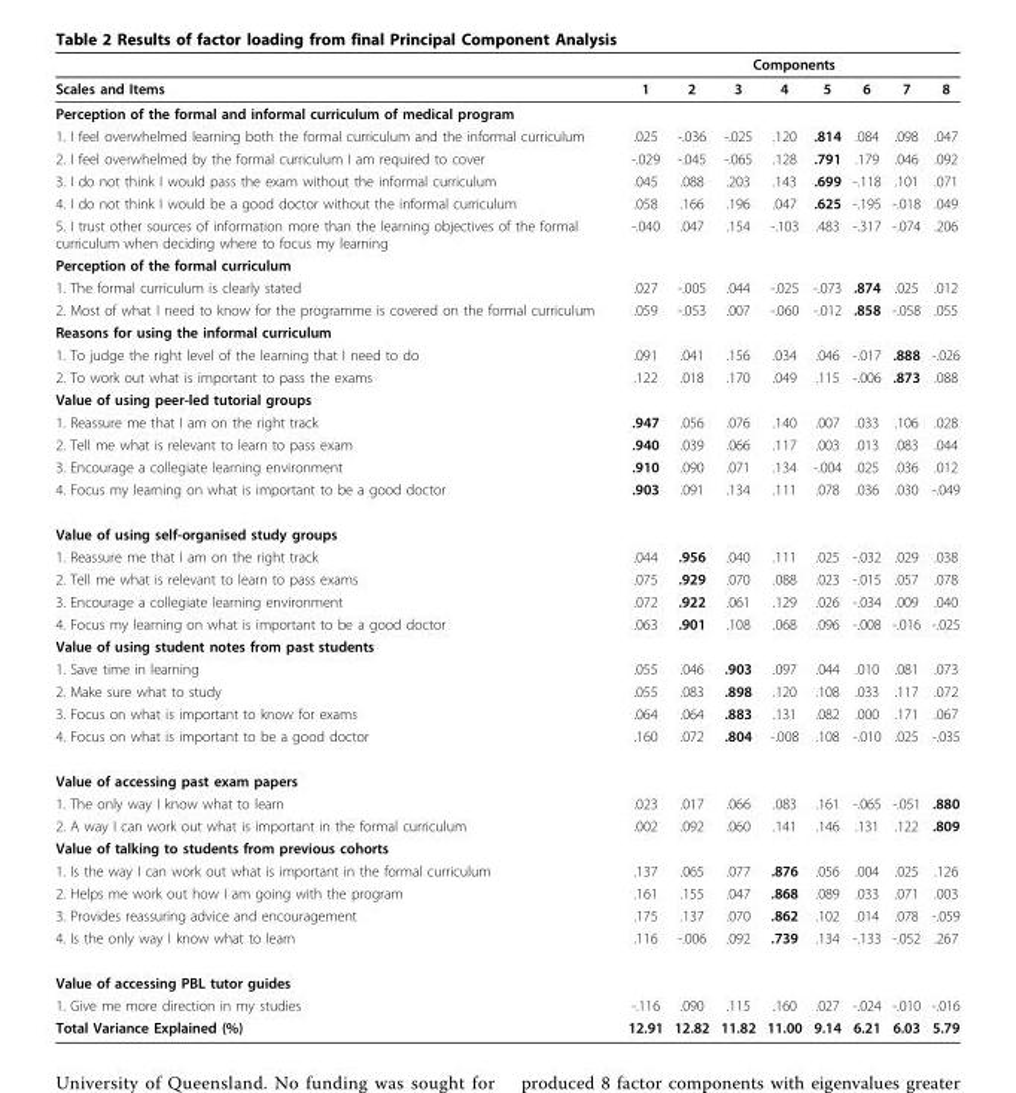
<table><thead><tr><td rowspan="2">Scales and Items</td><td colspan="8">Components</td></tr><tr><td>1</td><td>2</td><td>3</td><td>4</td><td>5</td><td>6</td><td>7</td><td>8</td></tr></thead><tbody><tr><td colspan="9">Perception of the formal and informal curriculum of medical program</td></tr><tr><td>1. I feel overwhelmed learning both the formal curriculum and the informal curriculum</td><td>.025</td><td>-.036</td><td>-.025</td><td>.120</td><td>.814</td><td>.084</td><td>.098</td><td>.047</td></tr><tr><td>2. I feel overwhelmed by the formal curriculum I am required to cover</td><td>-.029</td><td>-.045</td><td>-.065</td><td>.128</td><td>.791</td><td>.179</td><td>.046</td><td>.092</td></tr><tr><td>3. I do not think I would pass the exam without the informal curriculum</td><td>.045</td><td>.088</td><td>.203</td><td>.143</td><td>.699</td><td>-.118</td><td>.101</td><td>.071</td></tr><tr><td>4. I do not think I would be a good doctor without the informal curriculum</td><td>.058</td><td>.166</td><td>.196</td><td>.047</td><td>.625</td><td>-.195</td><td>-.018</td><td>.049</td></tr><tr><td>5. I trust other sources of information more than the learning objectives of the formal curriculum when deciding where to focus my learning</td><td>-.040</td><td>.047</td><td>.154</td><td>-.103</td><td>.483</td><td>-.317</td><td>-.074</td><td>.206</td></tr><tr><td colspan="9">Perception of the formal curriculum</td></tr><tr><td>1. The formal curriculum is clearly stated</td><td>.027</td><td>-.005</td><td>.044</td><td>-.025</td><td>-.073</td><td>.874</td><td>.025</td><td>.012</td></tr><tr><td>2. Most of what I need to know for the programme is covered on the formal curriculum</td><td>.059</td><td>-.053</td><td>.007</td><td>-.060</td><td>-.012</td><td>.858</td><td>-.058</td><td>.055</td></tr><tr><td colspan="9">Reasons for using the informal curriculum</td></tr><tr><td>1. To judge the right level of the learning that I need to do</td><td>.091</td><td>.041</td><td>.156</td><td>.034</td><td>.046</td><td>-.017</td><td>.888</td><td>-.026</td></tr><tr><td>2. To work out what is important to pass the exams</td><td>.122</td><td>.018</td><td>.170</td><td>.049</td><td>.115</td><td>-.006</td><td>.873</td><td>.088</td></tr><tr><td colspan="9">Value of using peer-led tutorial groups</td></tr><tr><td>1. Reassure me that I am on the right track</td><td>.947</td><td>.056</td><td>.076</td><td>.140</td><td>.007</td><td>.033</td><td>.106</td><td>.028</td></tr><tr><td>2. Tell me what is relevant to learn to pass exam</td><td>.940</td><td>.039</td><td>.066</td><td>.117</td><td>.003</td><td>.013</td><td>.083</td><td>.044</td></tr><tr><td>3. Encourage a collegiate learning environment</td><td>.910</td><td>.090</td><td>.071</td><td>.134</td><td>-.004</td><td>.025</td><td>.036</td><td>.012</td></tr><tr><td>4. Focus my learning on what is important to be a good doctor</td><td>.903</td><td>.091</td><td>.134</td><td>.111</td><td>.078</td><td>.036</td><td>.030</td><td>-.049</td></tr><tr><td colspan="9">Value of using self-organised study groups</td></tr><tr><td>1. Reassure me that I am on the right track</td><td>.044</td><td>.956</td><td>.040</td><td>.111</td><td>.025</td><td>-.032</td><td>.029</td><td>.038</td></tr><tr><td>2. Tell me what is relevant to learn to pass exams</td><td>.075</td><td>.929</td><td>.070</td><td>.088</td><td>.023</td><td>-.015</td><td>.057</td><td>.078</td></tr><tr><td>3. Encourage a collegiate learning environment</td><td>.072</td><td>.922</td><td>.061</td><td>.129</td><td>.026</td><td>-.034</td><td>.009</td><td>.040</td></tr><tr><td>4. Focus my learning on what is important to be a good doctor</td><td>.063</td><td>.901</td><td>.108</td><td>.068</td><td>.096</td><td>-.008</td><td>-.016</td><td>-.025</td></tr><tr><td colspan="9">Value of using student notes from past students</td></tr><tr><td>1. Save time in learning</td><td>.055</td><td>.046</td><td>.903</td><td>.097</td><td>.044</td><td>.010</td><td>.081</td><td>.073</td></tr><tr><td>2. Make sure what to study</td><td>.055</td><td>.083</td><td>.898</td><td>.120</td><td>.108</td><td>.033</td><td>.117</td><td>.072</td></tr><tr><td>3. Focus on what is important to know for exams</td><td>.064</td><td>.064</td><td>.883</td><td>.131</td><td>.082</td><td>.000</td><td>.171</td><td>.067</td></tr><tr><td>4. Focus on what is important to be a good doctor</td><td>.160</td><td>.072</td><td>.804</td><td>-.008</td><td>.108</td><td>-.010</td><td>.025</td><td>-.035</td></tr><tr><td colspan="9">Value of accessing past exam papers</td></tr><tr><td>1. The only way I know what to learn</td><td>.023</td><td>.017</td><td>.066</td><td>.083</td><td>.161</td><td>-.065</td><td>-.051</td><td>.880</td></tr><tr><td>2. A way I can work out what is important in the formal curriculum</td><td>.002</td><td>.092</td><td>.060</td><td>.141</td><td>.146</td><td>.131</td><td>.122</td><td>.809</td></tr><tr><td colspan="9">Value of talking to students from previous cohorts</td></tr><tr><td>1. Is the way I can work out what is important in the formal curriculum</td><td>.137</td><td>.065</td><td>.077</td><td>.876</td><td>.056</td><td>.004</td><td>.025</td><td>.126</td></tr><tr><td>2. Helps me work out how I am going with the program</td><td>.161</td><td>.155</td><td>.047</td><td>.868</td><td>.089</td><td>.033</td><td>.071</td><td>.003</td></tr><tr><td>3. Provides reassuring advice and encouragement</td><td>.175</td><td>.137</td><td>.070</td><td>.862</td><td>.102</td><td>.014</td><td>.078</td><td>-.059</td></tr><tr><td>4. Is the only way I know what to learn</td><td>.116</td><td>-.006</td><td>.092</td><td>.739</td><td>.134</td><td>-.133</td><td>-.052</td><td>.267</td></tr><tr><td colspan="9">Value of accessing PBL tutor guides</td></tr><tr><td>1. Give me more direction in my studies</td><td>-.116</td><td>.090</td><td>.115</td><td>.160</td><td>.027</td><td>-.024</td><td>-.010</td><td>-.016</td></tr><tr><td>Total Variance Explained (%)</td><td>12.91</td><td>12.82</td><td>11.82</td><td>11.00</td><td>9.14</td><td>6.21</td><td>6.03</td><td>5.79</td></tr></tbody></table>